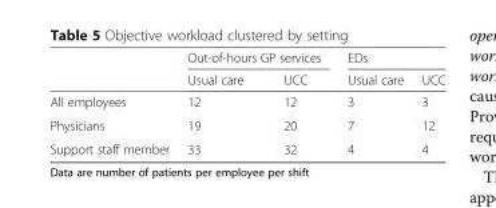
<table><thead><tr><td rowspan="2"></td><td colspan="2">Out-of-hours GP services</td><td colspan="2">EDs</td></tr><tr><td>Usual care</td><td>UCC</td><td>Usual care</td><td>UCC</td></tr></thead><tbody><tr><td>All employees</td><td>12</td><td>12</td><td>3</td><td>3</td></tr><tr><td>Physicians</td><td>19</td><td>20</td><td>7</td><td>12</td></tr><tr><td>Support staff member</td><td>33</td><td>32</td><td>4</td><td>4</td></tr></tbody></table>